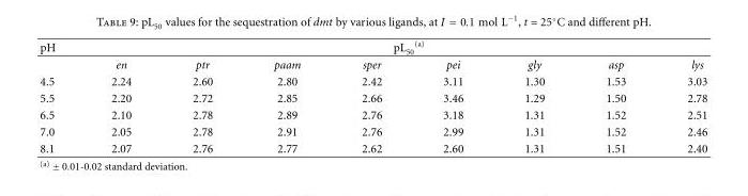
<table><thead><tr><td rowspan="2">pH</td><td colspan="8">pL<sub>50</sub> <sup>(a)</sup></td></tr><tr><td>en</td><td>ptr</td><td>paam</td><td>sper</td><td>pei</td><td>gly</td><td>asp</td><td>lys</td></tr></thead><tbody><tr><td>4.5</td><td>2.24</td><td>2.60</td><td>2.80</td><td>2.42</td><td>3.11</td><td>1.30</td><td>1.53</td><td>3.03</td></tr><tr><td>5.5</td><td>2.20</td><td>2.72</td><td>2.85</td><td>2.66</td><td>3.46</td><td>1.29</td><td>1.50</td><td>2.78</td></tr><tr><td>6.5</td><td>2.10</td><td>2.78</td><td>2.89</td><td>2.76</td><td>3.18</td><td>1.31</td><td>1.52</td><td>2.51</td></tr><tr><td>7.0</td><td>2.05</td><td>2.78</td><td>2.91</td><td>2.76</td><td>2.99</td><td>1.31</td><td>1.52</td><td>2.46</td></tr><tr><td>8.1</td><td>2.07</td><td>2.76</td><td>2.77</td><td>2.62</td><td>2.60</td><td>1.31</td><td>1.51</td><td>2.40</td></tr></tbody></table>